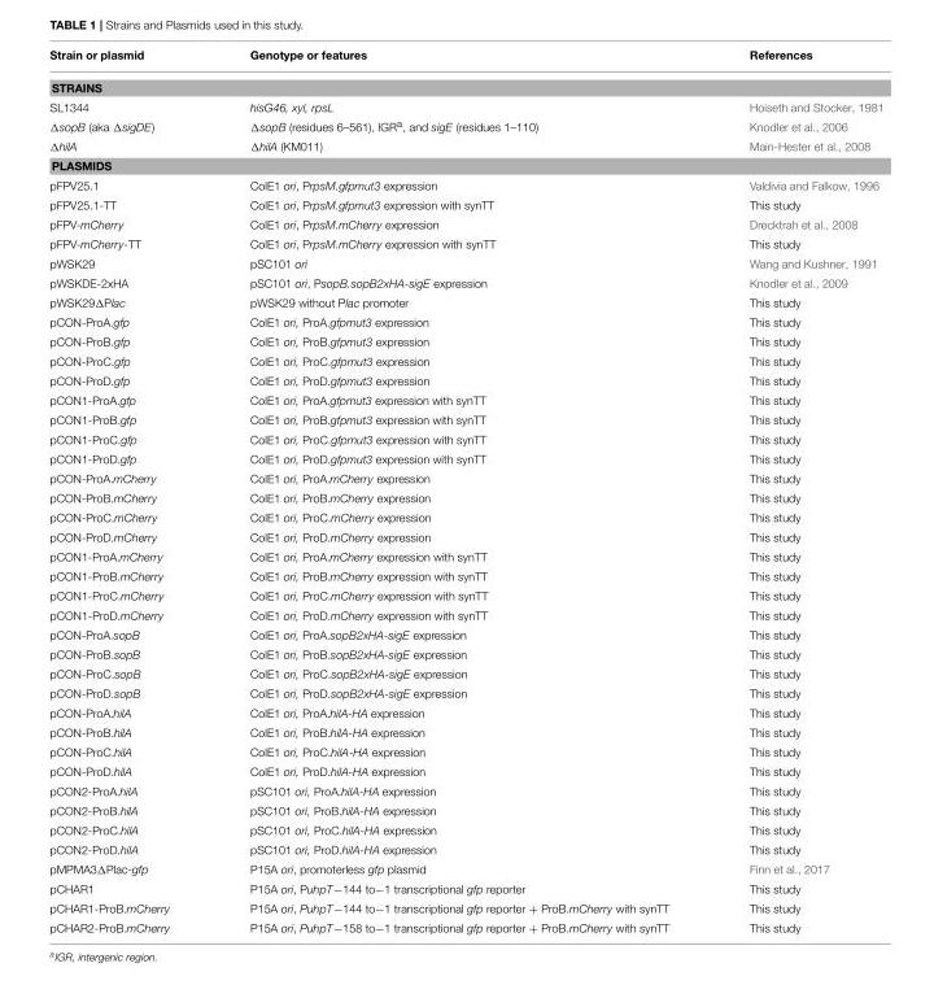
<table><thead><tr><td>Strain or plasmid</td><td>Genotype or features</td><td>References</td></tr></thead><tbody><tr><td colspan="3">STRAINS</td></tr><tr><td>SL1344</td><td>hisG46, xyl, rpsL</td><td>Hoiseth and Stocker, 1981</td></tr><tr><td>ΔsopB (aka ΔsigDE)</td><td>ΔsopB (residues 6–561), IGR<sup>a</sup>, and sigE (residues 1–110)</td><td>Knodler et al., 2006</td></tr><tr><td>ΔhilA</td><td>ΔhilA (KM011)</td><td>Main-Hester et al., 2008</td></tr><tr><td colspan="3">PLASMIDS</td></tr><tr><td>pFPV25.1</td><td>ColE1 ori, PrpsM.gfpmut3 expression</td><td>Valdivia and Falkow, 1996</td></tr><tr><td>pFPV25.1-TT</td><td>ColE1 ori, PrpsM.gfpmut3 expression with synTT</td><td>This study</td></tr><tr><td>pFPV-mCherry</td><td>ColE1 ori, PrpsM.mCherry expression</td><td>Drecktrah et al., 2008</td></tr><tr><td>pFPV-mCherry-TT</td><td>ColE1 ori, PrpsM.mCherry expression with synTT</td><td>This study</td></tr><tr><td>pWSK29</td><td>pSC101 ori</td><td>Wang and Kushner, 1991</td></tr><tr><td>pWSKDE-2xHA</td><td>pSC101 ori, PsopB.sopB2xHA-sigE expression</td><td>Knodler et al., 2009</td></tr><tr><td>pWSK29ΔPlac</td><td>pWSK29 without Plac promoter</td><td>This study</td></tr><tr><td>pCON-ProA.gfp</td><td>ColE1 ori, ProA.gfpmut3 expression</td><td>This study</td></tr><tr><td>pCON-ProB.gfp</td><td>ColE1 ori, ProB.gfpmut3 expression</td><td>This study</td></tr><tr><td>pCON-ProC.gfp</td><td>ColE1 ori, ProC.gfpmut3 expression</td><td>This study</td></tr><tr><td>pCON-ProD.gfp</td><td>ColE1 ori, ProD.gfpmut3 expression</td><td>This study</td></tr><tr><td>pCON1-ProA.gfp</td><td>ColE1 ori, ProA.gfpmut3 expression with synTT</td><td>This study</td></tr><tr><td>pCON1-ProB.gfp</td><td>ColE1 ori, ProB.gfpmut3 expression with synTT</td><td>This study</td></tr><tr><td>pCON1-ProC.gfp</td><td>ColE1 ori, ProC.gfpmut3 expression with synTT</td><td>This study</td></tr><tr><td>pCON1-ProD.gfp</td><td>ColE1 ori, ProD.gfpmut3 expression with synTT</td><td>This study</td></tr><tr><td>pCON-ProA.mCherry</td><td>ColE1 ori, ProA.mCherry expression</td><td>This study</td></tr><tr><td>pCON-ProB.mCherry</td><td>ColE1 ori, ProB.mCherry expression</td><td>This study</td></tr><tr><td>pCON-ProC.mCherry</td><td>ColE1 ori, ProC.mCherry expression</td><td>This study</td></tr><tr><td>pCON-ProD.mCherry</td><td>ColE1 ori, ProD.mCherry expression</td><td>This study</td></tr><tr><td>pCON1-ProA.mCherry</td><td>ColE1 ori, ProA.mCherry expression with synTT</td><td>This study</td></tr><tr><td>pCON1-ProB.mCherry</td><td>ColE1 ori, ProB.mCherry expression with synTT</td><td>This study</td></tr><tr><td>pCON1-ProC.mCherry</td><td>ColE1 ori, ProC.mCherry expression with synTT</td><td>This study</td></tr><tr><td>pCON1-ProD.mCherry</td><td>ColE1 ori, ProD.mCherry expression with synTT</td><td>This study</td></tr><tr><td>pCON-ProA.sopB</td><td>ColE1 ori, ProA.sopB2xHA-sigE expression</td><td>This study</td></tr><tr><td>pCON-ProB.sopB</td><td>ColE1 ori, ProB.sopB2xHA-sigE expression</td><td>This study</td></tr><tr><td>pCON-ProC.sopB</td><td>ColE1 ori, ProC.sopB2xHA-sigE expression</td><td>This study</td></tr><tr><td>pCON-ProD.sopB</td><td>ColE1 ori, ProD.sopB2xHA-sigE expression</td><td>This study</td></tr><tr><td>pCON-ProA.hilA</td><td>ColE1 ori, ProA.hilA-HA expression</td><td>This study</td></tr><tr><td>pCON-ProB.hilA</td><td>ColE1 ori, ProB.hilA-HA expression</td><td>This study</td></tr><tr><td>pCON-ProC.hilA</td><td>ColE1 ori, ProC.hilA-HA expression</td><td>This study</td></tr><tr><td>pCON-ProD.hilA</td><td>ColE1 ori, ProD.hilA-HA expression</td><td>This study</td></tr><tr><td>pCON2-ProA.hilA</td><td>pSC101 ori, ProA.hilA-HA expression</td><td>This study</td></tr><tr><td>pCON2-ProB.hilA</td><td>pSC101 ori, ProB.hilA-HA expression</td><td>This study</td></tr><tr><td>pCON2-ProC.hilA</td><td>pSC101 ori, ProC.hilA-HA expression</td><td>This study</td></tr><tr><td>pCON2-ProD.hilA</td><td>pSC101 ori, ProD.hilA-HA expression</td><td>This study</td></tr><tr><td>pMPMA3ΔPlac-gfp</td><td>P15A ori, promoterless gfp plasmid</td><td>Finn et al., 2017</td></tr><tr><td>pCHAR1</td><td>P15A ori, PuhpT−144 to−1 transcriptional gfp reporter</td><td>This study</td></tr><tr><td>pCHAR1-ProB.mCherry</td><td>P15A ori, PuhpT−144 to−1 transcriptional gfp reporter + ProB.mCherry with synTT</td><td>This study</td></tr><tr><td>pCHAR2-ProB.mCherry</td><td>P15A ori, PuhpT−158 to−1 transcriptional gfp reporter + ProB.mCherry with synTT</td><td>This study</td></tr></tbody></table>